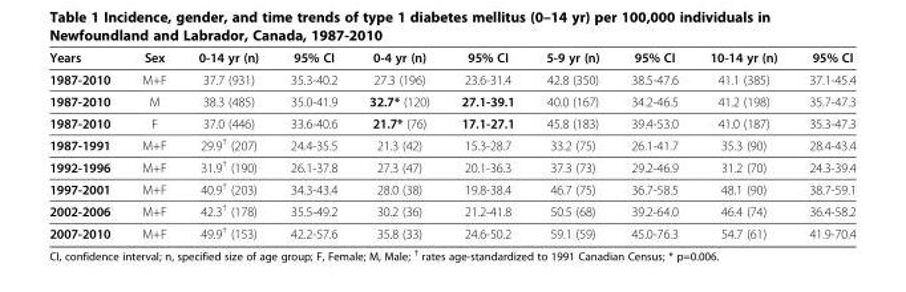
<table><thead><tr><td>Years</td><td>Sex</td><td>0-14 yr (n)</td><td>95% CI</td><td>0-4 yr (n)</td><td>95% CI</td><td>5-9 yr (n)</td><td>95% CI</td><td>10-14 yr (n)</td><td>95% CI</td></tr></thead><tbody><tr><td>1987-2010</td><td>M+F</td><td>37.7 (931)</td><td>35.3-40.2</td><td>27.3 (196)</td><td>23.6-31.4</td><td>42.8 (350)</td><td>38.5-47.6</td><td>41.1 (385)</td><td>37.1-45.4</td></tr><tr><td>1987-2010</td><td>M</td><td>38.3 (485)</td><td>35.0-41.9</td><td>32.7* (120)</td><td>27.1-39.1</td><td>40.0 (167)</td><td>34.2-46.5</td><td>41.2 (198)</td><td>35.7-47.3</td></tr><tr><td>1987-2010</td><td>F</td><td>37.0 (446)</td><td>33.6-40.6</td><td>21.7* (76)</td><td>17.1-27.1</td><td>45.8 (183)</td><td>39.4-53.0</td><td>41.0 (187)</td><td>35.3-47.3</td></tr><tr><td>1987-1991</td><td>M+F</td><td>29.9<sup>†</sup> (207)</td><td>24.4-35.5</td><td>21.3 (42)</td><td>15.3-28.7</td><td>33.2 (75)</td><td>26.1-41.7</td><td>35.3 (90)</td><td>28.4-43.4</td></tr><tr><td>1992-1996</td><td>M+F</td><td>31.9<sup>†</sup> (190)</td><td>26.1-37.8</td><td>27.3 (47)</td><td>20.1-36.3</td><td>37.3 (73)</td><td>29.2-46.9</td><td>31.2 (70)</td><td>24.3-39.4</td></tr><tr><td>1997-2001</td><td>M+F</td><td>40.9<sup>†</sup> (203)</td><td>34.3-43.4</td><td>28.0 (38)</td><td>19.8-38.4</td><td>46.7 (75)</td><td>36.7-58.5</td><td>48.1 (90)</td><td>38.7-59.1</td></tr><tr><td>2002-2006</td><td>M+F</td><td>42.3<sup>†</sup> (178)</td><td>35.5-49.2</td><td>30.2 (36)</td><td>21.2-41.8</td><td>50.5 (68)</td><td>39.2-64.0</td><td>46.4 (74)</td><td>36.4-58.2</td></tr><tr><td>2007-2010</td><td>M+F</td><td>49.9<sup>†</sup> (153)</td><td>42.2-57.6</td><td>35.8 (33)</td><td>24.6-50.2</td><td>59.1 (59)</td><td>45.0-76.3</td><td>54.7 (61)</td><td>41.9-70.4</td></tr></tbody></table>